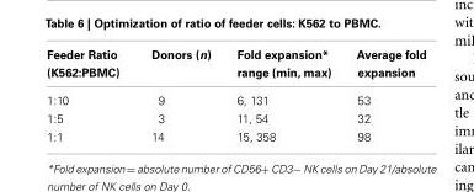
<table><thead><tr><td>Feeder Ratio (K562:PBMC)</td><td>Donors (n)</td><td>Fold expansion* range (min, max)</td><td>Average fold expansion</td></tr></thead><tbody><tr><td>1:10</td><td>9</td><td>6, 131</td><td>53</td></tr><tr><td>1:5</td><td>3</td><td>11, 54</td><td>32</td></tr><tr><td>1:1</td><td>14</td><td>15, 358</td><td>98</td></tr></tbody></table>